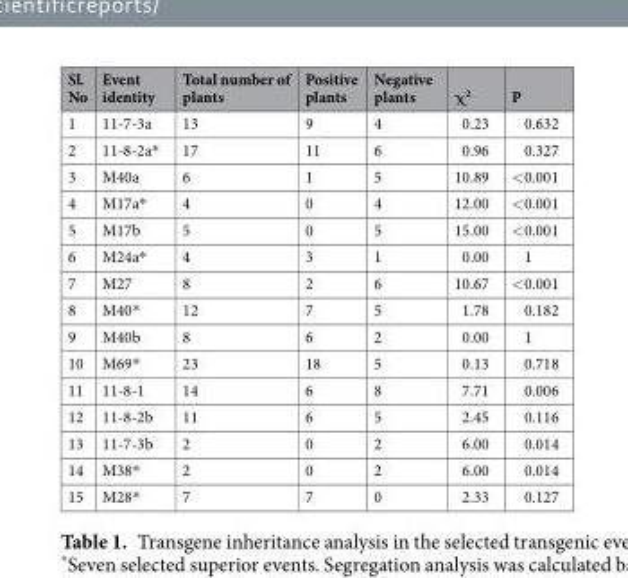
<table><thead><tr><td>Sl. No</td><td>Event identity</td><td>Total number of plants</td><td>Positive plants</td><td>Negative plants</td><td>χ<sup>2</sup></td><td>P</td></tr></thead><tbody><tr><td>1</td><td>11-7-3a</td><td>13</td><td>9</td><td>4</td><td>0.23</td><td>0.632</td></tr><tr><td>2</td><td>11-8-2a*</td><td>17</td><td>11</td><td>6</td><td>0.96</td><td>0.327</td></tr><tr><td>3</td><td>M40a</td><td>6</td><td>1</td><td>5</td><td>10.89</td><td>&lt;0.001</td></tr><tr><td>4</td><td>M17a*</td><td>4</td><td>0</td><td>4</td><td>12.00</td><td>&lt;0.001</td></tr><tr><td>5</td><td>M17b</td><td>5</td><td>0</td><td>5</td><td>15.00</td><td>&lt;0.001</td></tr><tr><td>6</td><td>M24a*</td><td>4</td><td>3</td><td>1</td><td>0.00</td><td>1</td></tr><tr><td>7</td><td>M27</td><td>8</td><td>2</td><td>6</td><td>10.67</td><td>&lt;0.001</td></tr><tr><td>8</td><td>M40*</td><td>12</td><td>7</td><td>5</td><td>1.78</td><td>0.182</td></tr><tr><td>9</td><td>M40b</td><td>8</td><td>6</td><td>2</td><td>0.00</td><td>1</td></tr><tr><td>10</td><td>M69*</td><td>23</td><td>18</td><td>5</td><td>0.13</td><td>0.718</td></tr><tr><td>11</td><td>11-8-1</td><td>14</td><td>6</td><td>8</td><td>7.71</td><td>0.006</td></tr><tr><td>12</td><td>11-8-2b</td><td>11</td><td>6</td><td>5</td><td>2.45</td><td>0.116</td></tr><tr><td>13</td><td>11-7-3b</td><td>2</td><td>0</td><td>2</td><td>6.00</td><td>0.014</td></tr><tr><td>14</td><td>M38*</td><td>2</td><td>0</td><td>2</td><td>6.00</td><td>0.014</td></tr><tr><td>15</td><td>M28*</td><td>7</td><td>7</td><td>0</td><td>2.33</td><td>0.127</td></tr></tbody></table>